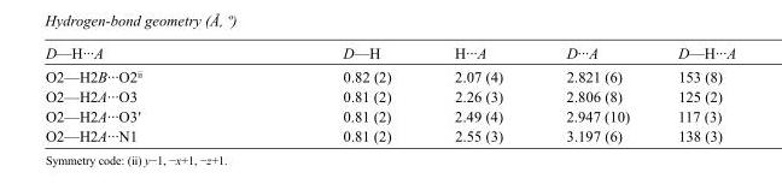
<table><tbody><tr><td>D—H···A</td><td>D—H</td><td>H···A</td><td>D···A</td><td>D—H···A</td></tr><tr><td>O2—H2B···O2<sup>ii</sup></td><td>0.82 (2)</td><td>2.07 (4)</td><td>2.821 (6)</td><td>153 (8)</td></tr><tr><td>O2—H2A···O3</td><td>0.81 (2)</td><td>2.26 (3)</td><td>2.806 (8)</td><td>125 (2)</td></tr><tr><td>O2—H2A···O3′</td><td>0.81 (2)</td><td>2.49 (4)</td><td>2.947 (10)</td><td>117 (3)</td></tr><tr><td>O2—H2A···N1</td><td>0.81 (2)</td><td>2.55 (3)</td><td>3.197 (6)</td><td>138 (3)</td></tr></tbody></table>